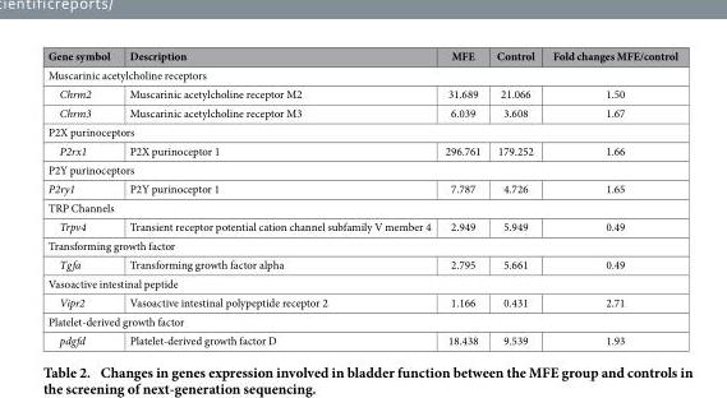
<table><thead><tr><td>Gene symbol</td><td>Description</td><td>MFE</td><td>Control</td><td>Fold changes MFE/control</td></tr></thead><tbody><tr><td colspan="5">Muscarinic acetylcholine receptors</td></tr><tr><td>Chrm2</td><td>Muscarinic acetylcholine receptor M2</td><td>31.689</td><td>21.066</td><td>1.50</td></tr><tr><td>Chrm3</td><td>Muscarinic acetylcholine receptor M3</td><td>6.039</td><td>3.608</td><td>1.67</td></tr><tr><td colspan="5">P2X purinoceptors</td></tr><tr><td>P2rx1</td><td>P2X purinoceptor 1</td><td>296.761</td><td>179.252</td><td>1.66</td></tr><tr><td colspan="5">P2Y purinoceptors</td></tr><tr><td>P2ry1</td><td>P2Y purinoceptor 1</td><td>7.787</td><td>4.726</td><td>1.65</td></tr><tr><td colspan="5">TRP Channels</td></tr><tr><td>Trpv4</td><td>Transient receptor potential cation channel subfamily V member 4</td><td>2.949</td><td>5.949</td><td>0.49</td></tr><tr><td colspan="5">Transforming growth factor</td></tr><tr><td>Tgfa</td><td>Transforming growth factor alpha</td><td>2.795</td><td>5.661</td><td>0.49</td></tr><tr><td colspan="5">Vasoactive intestinal peptide</td></tr><tr><td>Vipr2</td><td>Vasoactive intestinal polypeptide receptor 2</td><td>1.166</td><td>0.431</td><td>2.71</td></tr><tr><td colspan="5">Platelet-derived growth factor</td></tr><tr><td>pdgfd</td><td>Platelet-derived growth factor D</td><td>18.438</td><td>9.539</td><td>1.93</td></tr></tbody></table>